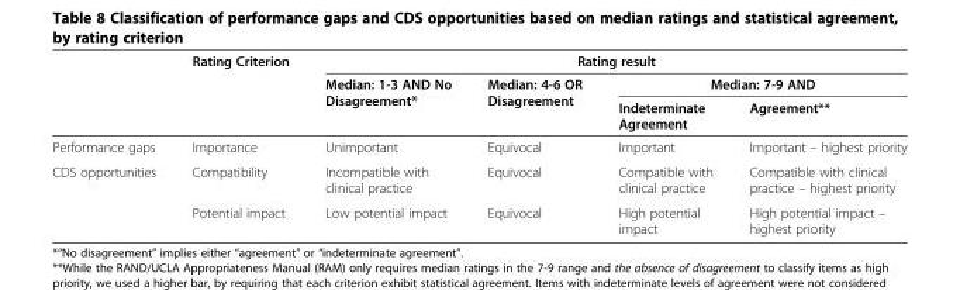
<table><thead><tr><td rowspan="3"></td><td rowspan="3">Rating Criterion</td><td colspan="4">Rating result</td></tr><tr><td rowspan="2">Median: 1-3 AND No Disagreement*</td><td rowspan="2">Median: 4-6 OR Disagreement</td><td colspan="2">Median: 7-9 AND</td></tr><tr><td>Indeterminate Agreement</td><td>Agreement**</td></tr></thead><tbody><tr><td>Performance gaps</td><td>Importance</td><td>Unimportant</td><td>Equivocal</td><td>Important</td><td>Important – highest priority</td></tr><tr><td rowspan="2">CDS opportunities</td><td>Compatibility</td><td>Incompatible with clinical practice</td><td>Equivocal</td><td>Compatible with clinical practice</td><td>Compatible with clinical practice – highest priority</td></tr><tr><td>Potential impact</td><td>Low potential impact</td><td>Equivocal</td><td>High potential impact</td><td>High potential impact – highest priority</td></tr></tbody></table>